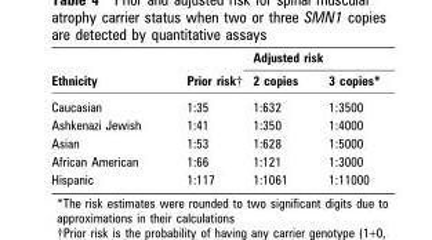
<table><thead><tr><td rowspan="2">Ethnicity</td><td rowspan="2">Prior risk†</td><td colspan="2">Adjusted risk</td></tr><tr><td>2 copies</td><td>3 copies*</td></tr></thead><tbody><tr><td>Caucasian</td><td>1:35</td><td>1:632</td><td>1:3500</td></tr><tr><td>Ashkenazi Jewish</td><td>1:41</td><td>1:350</td><td>1:4000</td></tr><tr><td>Asian</td><td>1:53</td><td>1:628</td><td>1:5000</td></tr><tr><td>African American</td><td>1:66</td><td>1:121</td><td>1:3000</td></tr><tr><td>Hispanic</td><td>1:117</td><td>1:1061</td><td>1:11000</td></tr></tbody></table>